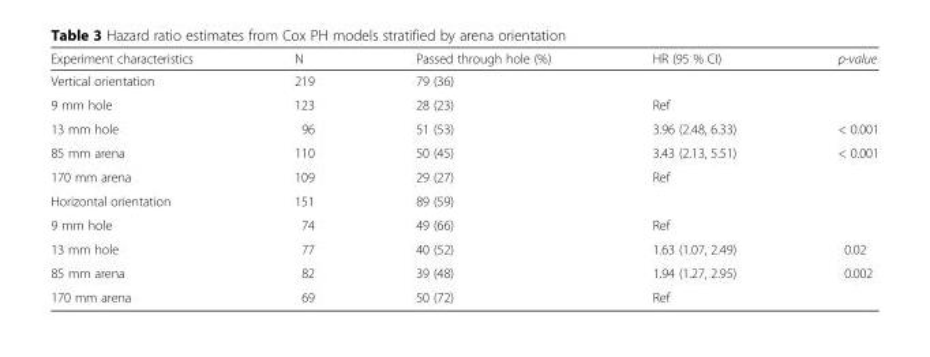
<table><thead><tr><td>Experiment characteristics</td><td>N</td><td>Passed through hole (%)</td><td>HR (95 % CI)</td><td>p-value</td></tr></thead><tbody><tr><td>Vertical orientation</td><td>219</td><td>79 (36)</td><td></td><td></td></tr><tr><td>9 mm hole</td><td>123</td><td>28 (23)</td><td>Ref</td><td></td></tr><tr><td>13 mm hole</td><td>96</td><td>51 (53)</td><td>3.96 (2.48, 6.33)</td><td>&lt; 0.001</td></tr><tr><td>85 mm arena</td><td>110</td><td>50 (45)</td><td>3.43 (2.13, 5.51)</td><td>&lt; 0.001</td></tr><tr><td>170 mm arena</td><td>109</td><td>29 (27)</td><td>Ref</td><td></td></tr><tr><td>Horizontal orientation</td><td>151</td><td>89 (59)</td><td></td><td></td></tr><tr><td>9 mm hole</td><td>74</td><td>49 (66)</td><td>Ref</td><td></td></tr><tr><td>13 mm hole</td><td>77</td><td>40 (52)</td><td>1.63 (1.07, 2.49)</td><td>0.02</td></tr><tr><td>85 mm arena</td><td>82</td><td>39 (48)</td><td>1.94 (1.27, 2.95)</td><td>0.002</td></tr><tr><td>170 mm arena</td><td>69</td><td>50 (72)</td><td>Ref</td><td></td></tr></tbody></table>